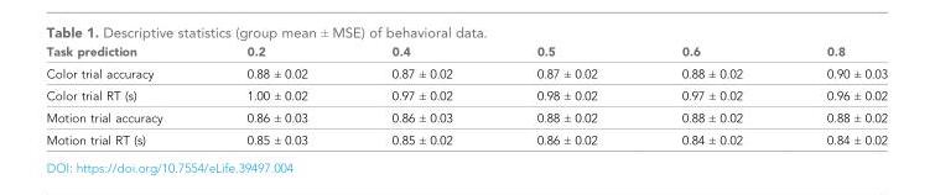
<table><thead><tr><td>Task prediction</td><td>0.2</td><td>0.4</td><td>0.5</td><td>0.6</td><td>0.8</td></tr></thead><tbody><tr><td>Color trial accuracy</td><td>0.88 ± 0.02</td><td>0.87 ± 0.02</td><td>0.87 ± 0.02</td><td>0.88 ± 0.02</td><td>0.90 ± 0.03</td></tr><tr><td>Color trial RT (s)</td><td>1.00 ± 0.02</td><td>0.97 ± 0.02</td><td>0.98 ± 0.02</td><td>0.97 ± 0.02</td><td>0.96 ± 0.02</td></tr><tr><td>Motion trial accuracy</td><td>0.86 ± 0.03</td><td>0.86 ± 0.03</td><td>0.88 ± 0.02</td><td>0.88 ± 0.02</td><td>0.88 ± 0.02</td></tr><tr><td>Motion trial RT (s)</td><td>0.85 ± 0.03</td><td>0.85 ± 0.02</td><td>0.86 ± 0.02</td><td>0.84 ± 0.02</td><td>0.84 ± 0.02</td></tr></tbody></table>